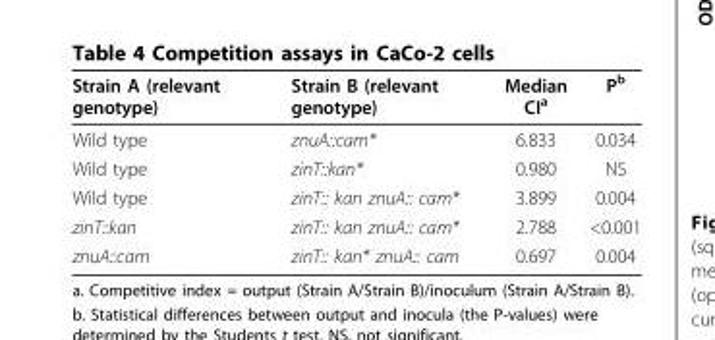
<table><thead><tr><td>Strain A (relevant genotype)</td><td>Strain B (relevant genotype)</td><td>Median CI<sup>a</sup></td><td>P<sup>b</sup></td></tr></thead><tbody><tr><td>Wild type</td><td>znuA::cam*</td><td>6.833</td><td>0.034</td></tr><tr><td>Wild type</td><td>zinT::kan*</td><td>0.980</td><td>NS</td></tr><tr><td>Wild type</td><td>zinT:: kan znuA:: cam*</td><td>3.899</td><td>0.004</td></tr><tr><td>zinT::kan</td><td>zinT:: kan znuA:: cam*</td><td>2.788</td><td>&lt;0.001</td></tr><tr><td>znuA::cam</td><td>zinT:: kan* znuA:: cam</td><td>0.697</td><td>0.004</td></tr></tbody></table>